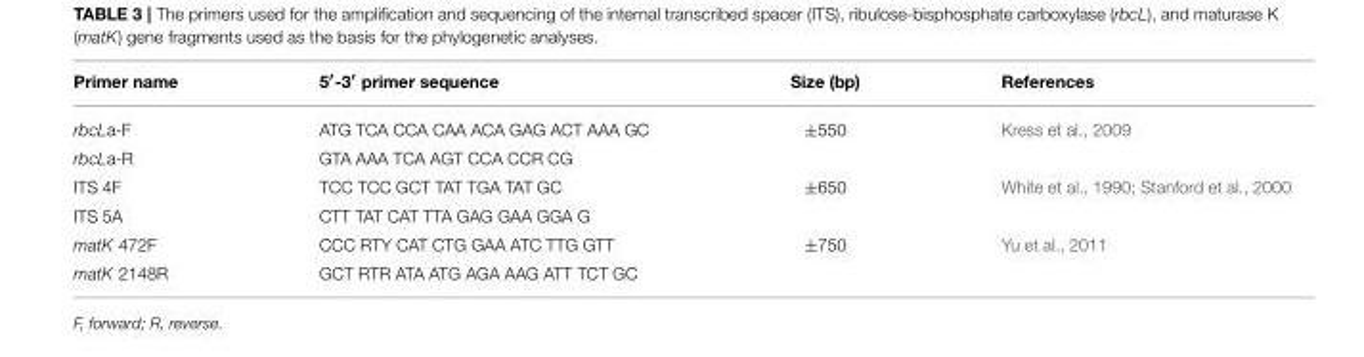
<table><thead><tr><td>Primer name</td><td>5′-3′ primer sequence</td><td>Size (bp)</td><td>References</td></tr></thead><tbody><tr><td>rbcLa-F</td><td>ATG TCA CCA CAA ACA GAG ACT AAA GC</td><td>±550</td><td>Kress et al., 2009</td></tr><tr><td>rbcLa-R</td><td>GTA AAA TCA AGT CCA CCR CG</td><td></td><td></td></tr><tr><td>ITS 4F</td><td>TCC TCC GCT TAT TGA TAT GC</td><td>±650</td><td>White et al., 1990; Stanford et al., 2000</td></tr><tr><td>ITS 5A</td><td>CTT TAT CAT TTA GAG GAA GGA G</td><td></td><td></td></tr><tr><td>matK 472F</td><td>CCC RTY CAT CTG GAA ATC TTG GTT</td><td>±750</td><td>Yu et al., 2011</td></tr><tr><td>matK 2148R</td><td>GCT RTR ATA ATG AGA AAG ATT TCT GC</td><td></td><td></td></tr></tbody></table>